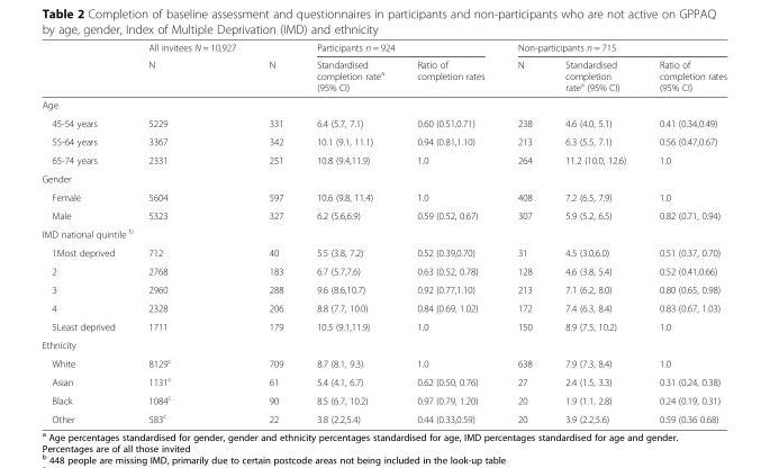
<table><thead><tr><td rowspan="2"></td><td rowspan="2">All invitees N = 10,927 N</td><td rowspan="2">N</td><td colspan="2">Participants n = 924</td><td colspan="3">Non-participants n = 715</td></tr><tr><td>Standardised completion rate<sup>a</sup> (95% CI)</td><td>Ratio of completion rates</td><td>N</td><td>Standardised completion rate<sup>a</sup> (95% CI)</td><td>Ratio of completion rates (95% CI)</td></tr></thead><tbody><tr><td colspan="8">Age</td></tr><tr><td>45-54 years</td><td>5229</td><td>331</td><td>6.4 (5.7, 7.1)</td><td>0.60 (0.51,0.71)</td><td>238</td><td>4.6 (4.0, 5.1)</td><td>0.41 (0.34,0.49)</td></tr><tr><td>55-64 years</td><td>3367</td><td>342</td><td>10.1 (9.1, 11.1)</td><td>0.94 (0.81,1.10)</td><td>213</td><td>6.3 (5.5, 7.1)</td><td>0.56 (0.47,0.67)</td></tr><tr><td>65-74 years</td><td>2331</td><td>251</td><td>10.8 (9.4,11.9)</td><td>1.0</td><td>264</td><td>11.2 (10.0, 12.6)</td><td>1.0</td></tr><tr><td colspan="8">Gender</td></tr><tr><td>Female</td><td>5604</td><td>597</td><td>10.6 (9.8, 11.4)</td><td>1.0</td><td>408</td><td>7.2 (6.5, 7.9)</td><td>1.0</td></tr><tr><td>Male</td><td>5323</td><td>327</td><td>6.2 (5.6,6.9)</td><td>0.59 (0.52, 0.67)</td><td>307</td><td>5.9 (5.2, 6.5)</td><td>0.82 (0.71, 0.94)</td></tr><tr><td colspan="8">IMD national quintile <sup>b</sup></td></tr><tr><td>1Most deprived</td><td>712</td><td>40</td><td>5.5 (3.8, 7.2)</td><td>0.52 (0.39,0.70)</td><td>31</td><td>4.5 (3.0,6.0)</td><td>0.51 (0.37, 0.70)</td></tr><tr><td>2</td><td>2768</td><td>183</td><td>6.7 (5.7,7.6)</td><td>0.63 (0.52, 0.78)</td><td>128</td><td>4.6 (3.8, 5.4)</td><td>0.52 (0.41,0.66)</td></tr><tr><td>3</td><td>2960</td><td>288</td><td>9.6 (8.6,10.7)</td><td>0.92 (0.77,1.10)</td><td>213</td><td>7.1 (6.2, 8.0)</td><td>0.80 (0.65, 0.98)</td></tr><tr><td>4</td><td>2328</td><td>206</td><td>8.8 (7.7, 10.0)</td><td>0.84 (0.69, 1.02)</td><td>172</td><td>7.4 (6.3, 8.4)</td><td>0.83 (0.67, 1.03)</td></tr><tr><td>5Least deprived</td><td>1711</td><td>179</td><td>10.5 (9.1,11.9)</td><td>1.0</td><td>150</td><td>8.9 (7.5, 10.2)</td><td>1.0</td></tr><tr><td colspan="8">Ethnicity</td></tr><tr><td>White</td><td>8129<sup>c</sup></td><td>709</td><td>8.7 (8.1, 9.3)</td><td>1.0</td><td>638</td><td>7.9 (7.3, 8.4)</td><td>1.0</td></tr><tr><td>Asian</td><td>1131<sup>c</sup></td><td>61</td><td>5.4 (4.1, 6.7)</td><td>0.62 (0.50, 0.76)</td><td>27</td><td>2.4 (1.5, 3.3)</td><td>0.31 (0.24, 0.38)</td></tr><tr><td>Black</td><td>1084<sup>c</sup></td><td>90</td><td>8.5 (6.7, 10.2)</td><td>0.97 (0.79, 1.20)</td><td>20</td><td>1.9 (1.1, 2.8)</td><td>0.24 (0.19, 0.31)</td></tr><tr><td>Other</td><td>583<sup>c</sup></td><td>22</td><td>3.8 (2.2,5.4)</td><td>0.44 (0.33,0.59)</td><td>20</td><td>3.9 (2.2,5.6)</td><td>0.59 (0.36 0.68)</td></tr></tbody></table>